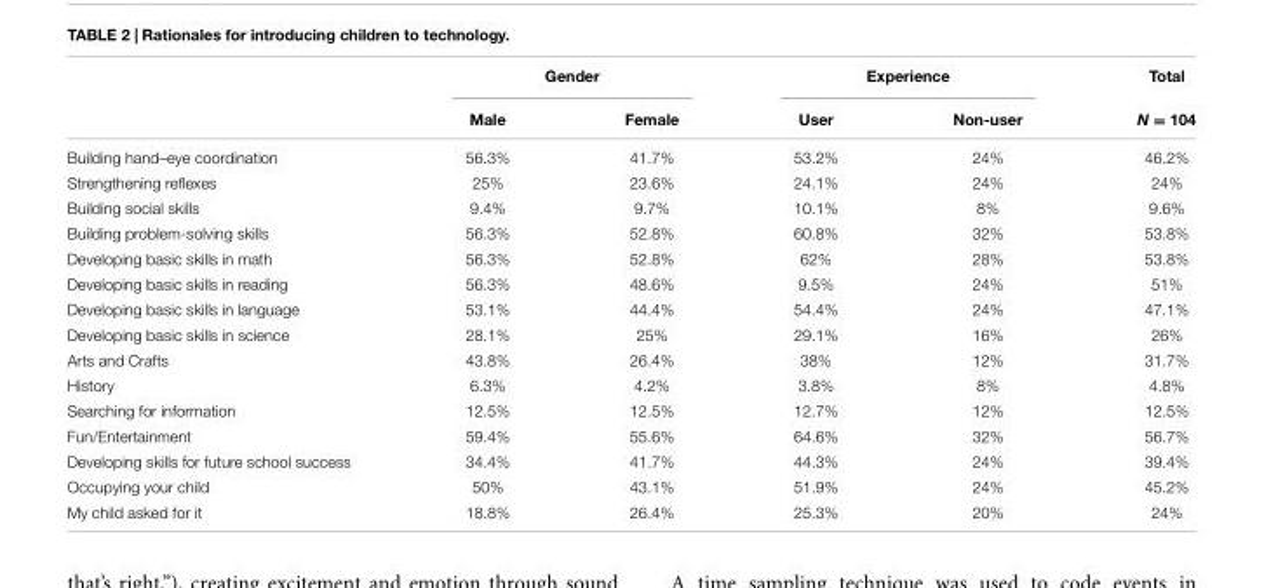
<table><thead><tr><td rowspan="2"></td><td colspan="2">Gender</td><td colspan="2">Experience</td><td rowspan="2">Total N = 104</td></tr><tr><td>Male</td><td>Female</td><td>User</td><td>Non-user</td></tr></thead><tbody><tr><td>Building hand–eye coordination</td><td>56.3%</td><td>41.7%</td><td>53.2%</td><td>24%</td><td>46.2%</td></tr><tr><td>Strengthening reflexes</td><td>25%</td><td>23.6%</td><td>24.1%</td><td>24%</td><td>24%</td></tr><tr><td>Building social skills</td><td>9.4%</td><td>9.7%</td><td>10.1%</td><td>8%</td><td>9.6%</td></tr><tr><td>Building problem-solving skills</td><td>56.3%</td><td>52.8%</td><td>60.8%</td><td>32%</td><td>53.8%</td></tr><tr><td>Developing basic skills in math</td><td>56.3%</td><td>52.8%</td><td>62%</td><td>28%</td><td>53.8%</td></tr><tr><td>Developing basic skills in reading</td><td>56.3%</td><td>48.6%</td><td>9.5%</td><td>24%</td><td>51%</td></tr><tr><td>Developing basic skills in language</td><td>53.1%</td><td>44.4%</td><td>54.4%</td><td>24%</td><td>47.1%</td></tr><tr><td>Developing basic skills in science</td><td>28.1%</td><td>25%</td><td>29.1%</td><td>16%</td><td>26%</td></tr><tr><td>Arts and Crafts</td><td>43.8%</td><td>26.4%</td><td>38%</td><td>12%</td><td>31.7%</td></tr><tr><td>History</td><td>6.3%</td><td>4.2%</td><td>3.8%</td><td>8%</td><td>4.8%</td></tr><tr><td>Searching for information</td><td>12.5%</td><td>12.5%</td><td>12.7%</td><td>12%</td><td>12.5%</td></tr><tr><td>Fun/Entertainment</td><td>59.4%</td><td>55.6%</td><td>64.6%</td><td>32%</td><td>56.7%</td></tr><tr><td>Developing skills for future school success</td><td>34.4%</td><td>41.7%</td><td>44.3%</td><td>24%</td><td>39.4%</td></tr><tr><td>Occupying your child</td><td>50%</td><td>43.1%</td><td>51.9%</td><td>24%</td><td>45.2%</td></tr><tr><td>My child asked for it</td><td>18.8%</td><td>26.4%</td><td>25.3%</td><td>20%</td><td>24%</td></tr></tbody></table>